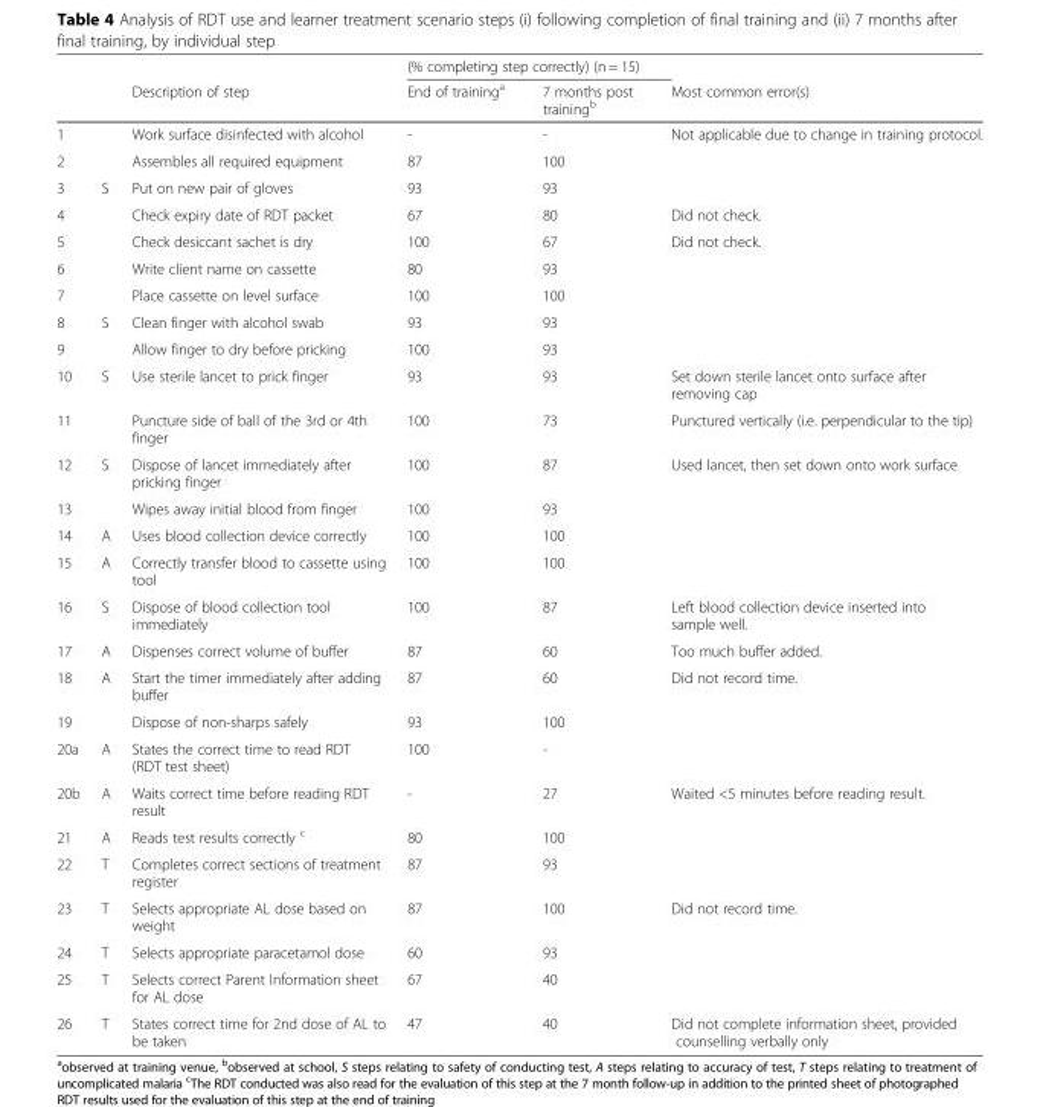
<table><thead><tr><td rowspan="2"></td><td rowspan="2"></td><td rowspan="2">Description of step</td><td colspan="2">(% completing step correctly) (n = 15)</td><td rowspan="2">Most common error(s)</td></tr><tr><td>End of training<sup>a</sup></td><td>7 months post training<sup>b</sup></td></tr></thead><tbody><tr><td>1</td><td></td><td>Work surface disinfected with alcohol</td><td>-</td><td>-</td><td>Not applicable due to change in training protocol.</td></tr><tr><td>2</td><td></td><td>Assembles all required equipment</td><td>87</td><td>100</td><td></td></tr><tr><td>3</td><td>S</td><td>Put on new pair of gloves</td><td>93</td><td>93</td><td></td></tr><tr><td>4</td><td></td><td>Check expiry date of RDT packet</td><td>67</td><td>80</td><td>Did not check.</td></tr><tr><td>5</td><td></td><td>Check desiccant sachet is dry</td><td>100</td><td>67</td><td>Did not check.</td></tr><tr><td>6</td><td></td><td>Write client name on cassette</td><td>80</td><td>93</td><td></td></tr><tr><td>7</td><td></td><td>Place cassette on level surface</td><td>100</td><td>100</td><td></td></tr><tr><td>8</td><td>S</td><td>Clean finger with alcohol swab</td><td>93</td><td>93</td><td></td></tr><tr><td>9</td><td></td><td>Allow finger to dry before pricking</td><td>100</td><td>93</td><td></td></tr><tr><td>10</td><td>S</td><td>Use sterile lancet to prick finger</td><td>93</td><td>93</td><td>Set down sterile lancet onto surface after removing cap</td></tr><tr><td>11</td><td></td><td>Puncture side of ball of the 3rd or 4th finger</td><td>100</td><td>73</td><td>Punctured vertically (i.e. perpendicular to the tip)</td></tr><tr><td>12</td><td>S</td><td>Dispose of lancet immediately after pricking finger</td><td>100</td><td>87</td><td>Used lancet, then set down onto work surface</td></tr><tr><td>13</td><td></td><td>Wipes away initial blood from finger</td><td>100</td><td>93</td><td></td></tr><tr><td>14</td><td>A</td><td>Uses blood collection device correctly</td><td>100</td><td>100</td><td></td></tr><tr><td>15</td><td>A</td><td>Correctly transfer blood to cassette using tool</td><td>100</td><td>100</td><td></td></tr><tr><td>16</td><td>S</td><td>Dispose of blood collection tool immediately</td><td>100</td><td>87</td><td>Left blood collection device inserted into sample well.</td></tr><tr><td>17</td><td>A</td><td>Dispenses correct volume of buffer</td><td>87</td><td>60</td><td>Too much buffer added.</td></tr><tr><td>18</td><td>A</td><td>Start the timer immediately after adding buffer</td><td>87</td><td>60</td><td>Did not record time.</td></tr><tr><td>19</td><td></td><td>Dispose of non-sharps safely</td><td>93</td><td>100</td><td></td></tr><tr><td>20a</td><td>A</td><td>States the correct time to read RDT (RDT test sheet)</td><td>100</td><td>-</td><td></td></tr><tr><td>20b</td><td>A</td><td>Waits correct time before reading RDT result</td><td>-</td><td>27</td><td>Waited &lt;5 minutes before reading result.</td></tr><tr><td>21</td><td>A</td><td>Reads test results correctly <sup>c</sup></td><td>80</td><td>100</td><td></td></tr><tr><td>22</td><td>T</td><td>Completes correct sections of treatment register</td><td>87</td><td>93</td><td></td></tr><tr><td>23</td><td>T</td><td>Selects appropriate AL dose based on weight</td><td>87</td><td>100</td><td>Did not record time.</td></tr><tr><td>24</td><td>T</td><td>Selects appropriate paracetamol dose</td><td>60</td><td>93</td><td></td></tr><tr><td>25</td><td>T</td><td>Selects correct Parent Information sheet for AL dose</td><td>67</td><td>40</td><td></td></tr><tr><td>26</td><td>T</td><td>States correct time for 2nd dose of AL to be taken</td><td>47</td><td>40</td><td>Did not complete information sheet, provided counselling verbally only</td></tr></tbody></table>